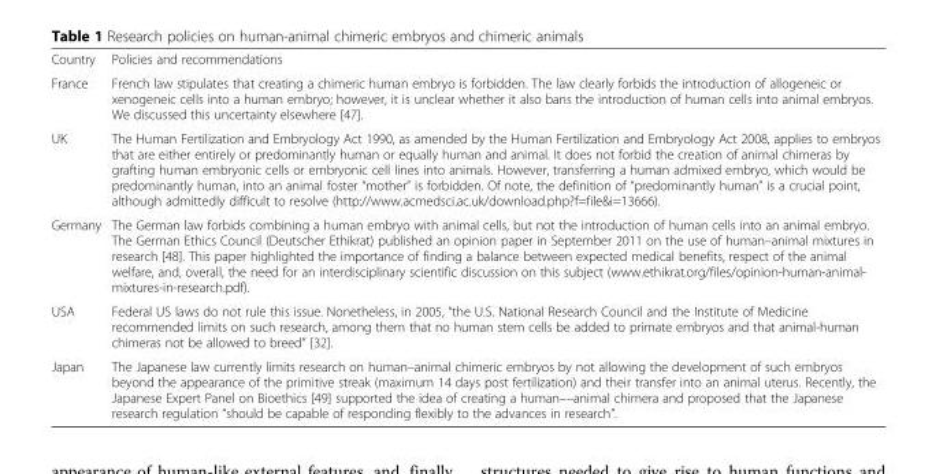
<table><tbody><tr><td>Country</td><td>Policies and recommendations</td></tr><tr><td>France</td><td>French law stipulates that creating a chimeric human embryo is forbidden. The law clearly forbids the introduction of allogeneic or xenogeneic cells into a human embryo; however, it is unclear whether it also bans the introduction of human cells into animal embryos. We discussed this uncertainty elsewhere [47].</td></tr><tr><td>UK</td><td>The Human Fertilization and Embryology Act 1990, as amended by the Human Fertilization and Embryology Act 2008, applies to embryos that are either entirely or predominantly human or equally human and animal. It does not forbid the creation of animal chimeras by grafting human embryonic cells or embryonic cell lines into animals. However, transferring a human admixed embryo, which would be predominantly human, into an animal foster “mother” is forbidden. Of note, the definition of “predominantly human” is a crucial point, although admittedly difficult to resolve (http://www.acmedsci.ac.uk/download.php?f=file&amp;i=13666).</td></tr><tr><td>Germany</td><td>The German law forbids combining a human embryo with animal cells, but not the introduction of human cells into an animal embryo. The German Ethics Council (Deutscher Ethikrat) published an opinion paper in September 2011 on the use of human–animal mixtures in research [48]. This paper highlighted the importance of finding a balance between expected medical benefits, respect of the animal welfare, and, overall, the need for an interdisciplinary scientific discussion on this subject (www.ethikrat.org/files/opinion-human-animal- mixtures-in-research.pdf).</td></tr><tr><td>USA</td><td>Federal US laws do not rule this issue. Nonetheless, in 2005, “the U.S. National Research Council and the Institute of Medicine recommended limits on such research, among them that no human stem cells be added to primate embryos and that animal-human chimeras not be allowed to breed” [32].</td></tr><tr><td>Japan</td><td>The Japanese law currently limits research on human–animal chimeric embryos by not allowing the development of such embryos beyond the appearance of the primitive streak (maximum 14 days post fertilization) and their transfer into an animal uterus. Recently, the Japanese Expert Panel on Bioethics [49] supported the idea of creating a human––animal chimera and proposed that the Japanese research regulation “should be capable of responding flexibly to the advances in research”.</td></tr></tbody></table>